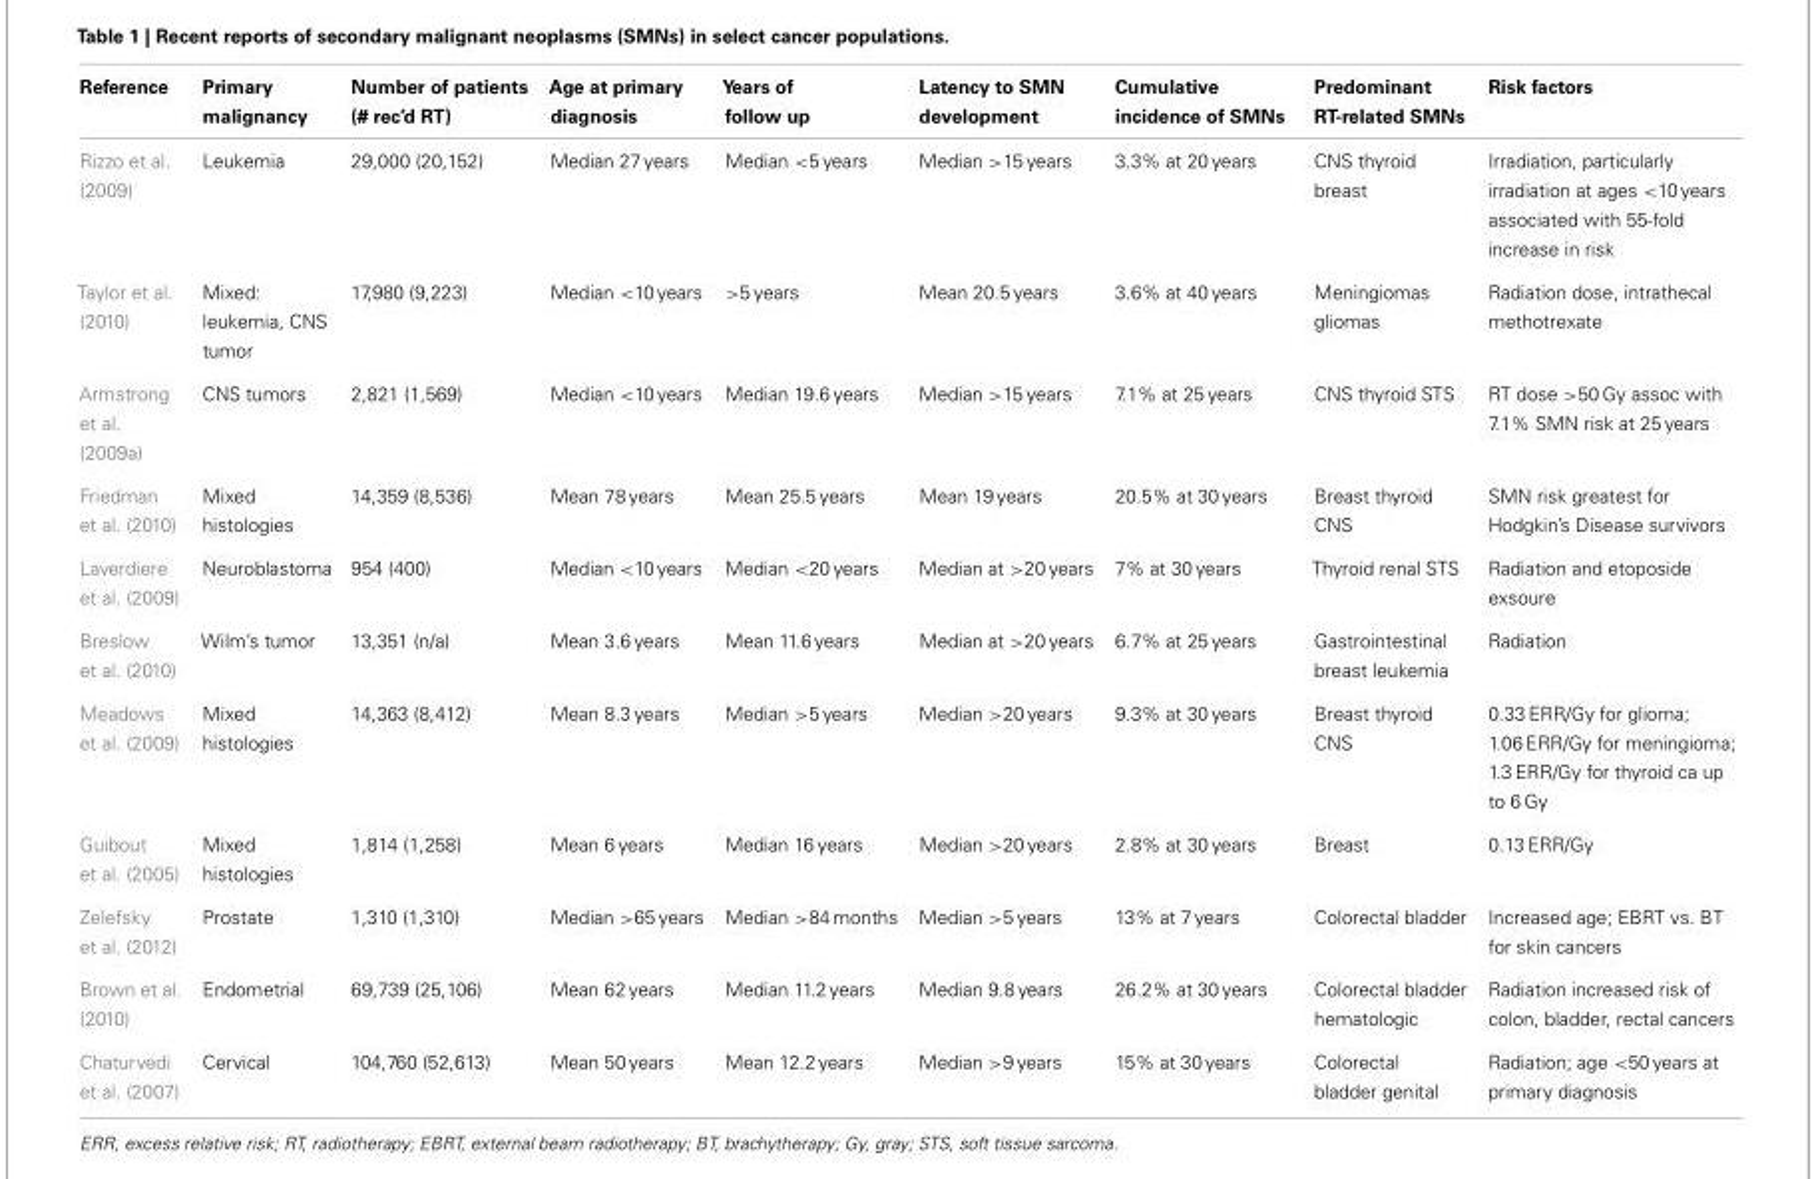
<table><thead><tr><td>Reference</td><td>Primary malignancy</td><td>Number of patients (# rec’d RT)</td><td>Age at primary diagnosis</td><td>Years of follow up</td><td>Latency to SMN development</td><td>Cumulative incidence of SMNs</td><td>Predominant RT-related SMNs</td><td>Risk factors</td></tr></thead><tbody><tr><td>Rizzo et al. (2009)</td><td>Leukemia</td><td>29,000 (20,152)</td><td>Median 27 years</td><td>Median &lt;5 years</td><td>Median &gt;15 years</td><td>3.3% at 20 years</td><td>CNS thyroid breast</td><td>Irradiation, particularly irradiation at ages &lt;10 years associated with 55-fold increase in risk</td></tr><tr><td>Taylor et al. (2010)</td><td>Mixed: leukemia, CNS tumor</td><td>17,980 (9,223)</td><td>Median &lt;10 years</td><td>&gt;5 years</td><td>Mean 20.5 years</td><td>3.6% at 40 years</td><td>Meningiomas gliomas</td><td>Radiation dose, intrathecal methotrexate</td></tr><tr><td>Armstrong et al. (2009a)</td><td>CNS tumors</td><td>2,821 (1,569)</td><td>Median &lt;10 years</td><td>Median 19.6 years</td><td>Median &gt;15 years</td><td>7.1% at 25 years</td><td>CNS thyroid STS</td><td>RT dose &gt;50 Gy assoc with 7.1% SMN risk at 25 years</td></tr><tr><td>Friedman et al. (2010)</td><td>Mixed histologies</td><td>14,359 (8,536)</td><td>Mean 78 years</td><td>Mean 25.5 years</td><td>Mean 19 years</td><td>20.5% at 30 years</td><td>Breast thyroid CNS</td><td>SMN risk greatest for Hodgkin’s Disease survivors</td></tr><tr><td>Laverdiere et al. (2009)</td><td>Neuroblastoma</td><td>954 (400)</td><td>Median &lt;10 years</td><td>Median &lt;20 years</td><td>Median at &gt;20 years</td><td>7% at 30 years</td><td>Thyroid renal STS</td><td>Radiation and etoposide exsoure</td></tr><tr><td>Breslow et al. (2010)</td><td>Wilm’s tumor</td><td>13,351 (n/a)</td><td>Mean 3.6 years</td><td>Mean 11.6 years</td><td>Median at &gt;20 years</td><td>6.7% at 25 years</td><td>Gastrointestinal breast leukemia</td><td>Radiation</td></tr><tr><td>Meadows et al. (2009)</td><td>Mixed histologies</td><td>14,363 (8,412)</td><td>Mean 8.3 years</td><td>Median &gt;5 years</td><td>Median &gt;20 years</td><td>9.3% at 30 years</td><td>Breast thyroid CNS</td><td>0.33 ERR/Gy for glioma; 1.06 ERR/Gy for meningioma; 1.3 ERR/Gy for thyroid ca up to 6 Gy</td></tr><tr><td>Guibout et al. (2005)</td><td>Mixed histologies</td><td>1,814 (1,258)</td><td>Mean 6 years</td><td>Median 16 years</td><td>Median &gt;20 years</td><td>2.8% at 30 years</td><td>Breast</td><td>0.13 ERR/Gy</td></tr><tr><td>Zelefsky et al. (2012)</td><td>Prostate</td><td>1,310 (1,310)</td><td>Median &gt;65 years</td><td>Median &gt;84 months</td><td>Median &gt;5 years</td><td>13% at 7 years</td><td>Colorectal bladder</td><td>Increased age; EBRT vs. BT for skin cancers</td></tr><tr><td>Brown et al. (2010)</td><td>Endometrial</td><td>69,739 (25,106)</td><td>Mean 62 years</td><td>Median 11.2 years</td><td>Median 9.8 years</td><td>26.2% at 30 years</td><td>Colorectal bladder hematologic</td><td>Radiation increased risk of colon, bladder, rectal cancers</td></tr><tr><td>Chaturvedi et al. (2007)</td><td>Cervical</td><td>104,760 (52,613)</td><td>Mean 50 years</td><td>Mean 12.2 years</td><td>Median &gt;9 years</td><td>15% at 30 years</td><td>Colorectal bladder genital</td><td>Radiation; age &lt;50 years at primary diagnosis</td></tr></tbody></table>